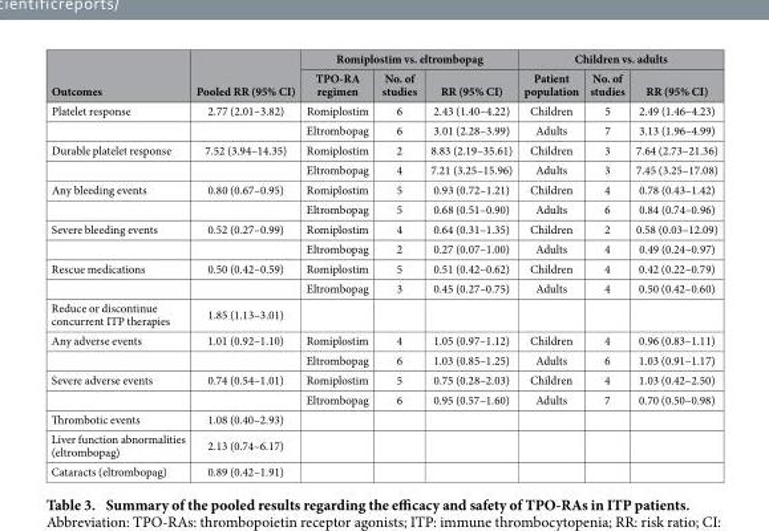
<table><thead><tr><td rowspan="2">Outcomes</td><td rowspan="2">Pooled RR (95% CI)</td><td colspan="3">Romiplostim vs. eltrombopag</td><td colspan="3">Children vs. adults</td></tr><tr><td>TPO-RA regimen</td><td>No. of studies</td><td>RR (95% CI)</td><td>Patient population</td><td>No. of studies</td><td>RR (95% CI)</td></tr></thead><tbody><tr><td rowspan="2">Platelet response</td><td>2.77 (2.01–3.82)</td><td>Romiplostim</td><td>6</td><td>2.43 (1.40–4.22)</td><td>Children</td><td>5</td><td>2.49 (1.46–4.23)</td></tr><tr><td></td><td>Eltrombopag</td><td>6</td><td>3.01 (2.28–3.99)</td><td>Adults</td><td>7</td><td>3.13 (1.96–4.99)</td></tr><tr><td rowspan="2">Durable platelet response</td><td>7.52 (3.94–14.35)</td><td>Romiplostim</td><td>2</td><td>8.83 (2.19–35.61)</td><td>Children</td><td>3</td><td>7.64 (2.73–21.36)</td></tr><tr><td></td><td>Eltrombopag</td><td>4</td><td>7.21 (3.25–15.96)</td><td>Adults</td><td>3</td><td>7.45 (3.25–17.08)</td></tr><tr><td rowspan="2">Any bleeding events</td><td>0.80 (0.67–0.95)</td><td>Romiplostim</td><td>5</td><td>0.93 (0.72–1.21)</td><td>Children</td><td>4</td><td>0.78 (0.43–1.42)</td></tr><tr><td></td><td>Eltrombopag</td><td>5</td><td>0.68 (0.51–0.90)</td><td>Adults</td><td>6</td><td>0.84 (0.74–0.96)</td></tr><tr><td rowspan="2">Severe bleeding events</td><td>0.52 (0.27–0.99)</td><td>Romiplostim</td><td>4</td><td>0.64 (0.31–1.35)</td><td>Children</td><td>2</td><td>0.58 (0.03–12.09)</td></tr><tr><td></td><td>Eltrombopag</td><td>2</td><td>0.27 (0.07–1.00)</td><td>Adults</td><td>4</td><td>0.49 (0.24–0.97)</td></tr><tr><td rowspan="2">Rescue medications</td><td>0.50 (0.42–0.59)</td><td>Romiplostim</td><td>5</td><td>0.51 (0.42–0.62)</td><td>Children</td><td>4</td><td>0.42 (0.22–0.79)</td></tr><tr><td></td><td>Eltrombopag</td><td>3</td><td>0.45 (0.27–0.75)</td><td>Adults</td><td>4</td><td>0.50 (0.42–0.60)</td></tr><tr><td>Reduce or discontinue concurrent ITP therapies</td><td>1.85 (1.13–3.01)</td><td></td><td></td><td></td><td></td><td></td><td></td></tr><tr><td rowspan="2">Any adverse events</td><td>1.01 (0.92–1.10)</td><td>Romiplostim</td><td>4</td><td>1.05 (0.97–1.12)</td><td>Children</td><td>4</td><td>0.96 (0.83–1.11)</td></tr><tr><td></td><td>Eltrombopag</td><td>6</td><td>1.03 (0.85–1.25)</td><td>Adults</td><td>6</td><td>1.03 (0.91–1.17)</td></tr><tr><td rowspan="2">Severe adverse events</td><td>0.74 (0.54–1.01)</td><td>Romiplostim</td><td>5</td><td>0.75 (0.28–2.03)</td><td>Children</td><td>4</td><td>1.03 (0.42–2.50)</td></tr><tr><td></td><td>Eltrombopag</td><td>6</td><td>0.95 (0.57–1.60)</td><td>Adults</td><td>7</td><td>0.70 (0.50–0.98)</td></tr><tr><td>Thrombotic events</td><td>1.08 (0.40–2.93)</td><td></td><td></td><td></td><td></td><td></td><td></td></tr><tr><td>Liver function abnormalities (eltrombopag)</td><td>2.13 (0.74–6.17)</td><td></td><td></td><td></td><td></td><td></td><td></td></tr><tr><td>Cataracts (eltrombopag)</td><td>0.89 (0.42–1.91)</td><td></td><td></td><td></td><td></td><td></td><td></td></tr></tbody></table>